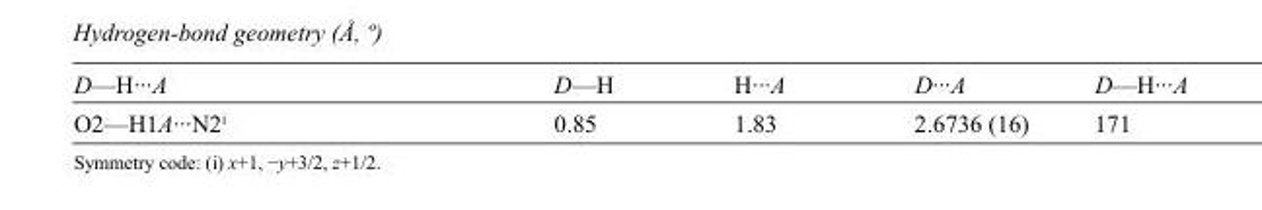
<table><tbody><tr><td>D—H···A</td><td>D—H</td><td>H···A</td><td>D···A</td><td>D—H···A</td></tr><tr><td>O2—H1A···N2<sup>i</sup></td><td>0.85</td><td>1.83</td><td>2.6736 (16)</td><td>171</td></tr></tbody></table>